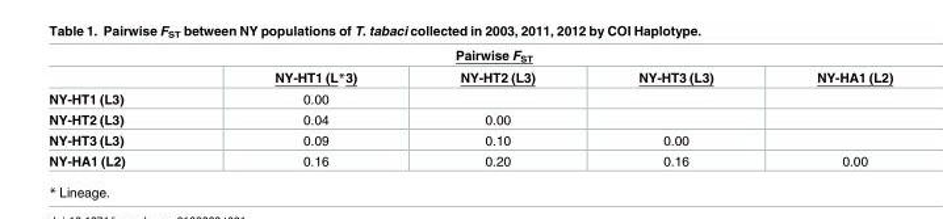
<table><thead><tr><td colspan="5">Pairwise F<sub>ST</sub></td></tr><tr><td></td><td>NY-HT1 (L*3)</td><td>NY-HT2 (L3)</td><td>NY-HT3 (L3)</td><td>NY-HA1 (L2)</td></tr></thead><tbody><tr><td>NY-HT1 (L3)</td><td>0.00</td><td></td><td></td><td></td></tr><tr><td>NY-HT2 (L3)</td><td>0.04</td><td>0.00</td><td></td><td></td></tr><tr><td>NY-HT3 (L3)</td><td>0.09</td><td>0.10</td><td>0.00</td><td></td></tr><tr><td>NY-HA1 (L2)</td><td>0.16</td><td>0.20</td><td>0.16</td><td>0.00</td></tr></tbody></table>